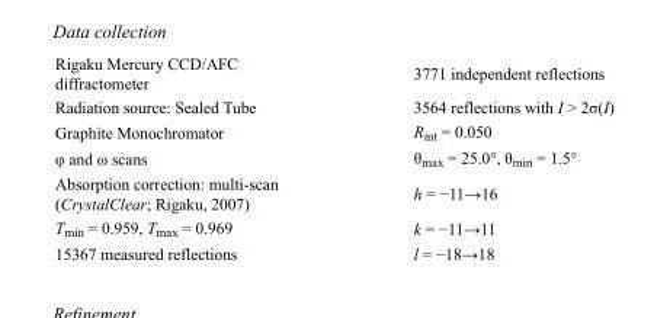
<table><tbody><tr><td>Rigaku Mercury CCD/AFC diffractometer</td><td>3771 independent reflections</td></tr><tr><td>Radiation source: Sealed Tube</td><td>3564 reflections with I &gt; 2σ(I)</td></tr><tr><td>Graphite Monochromator</td><td>R<sub>int</sub> = 0.050</td></tr><tr><td>φ and ω scans</td><td>θ<sub>max</sub> = 25.0°, θ<sub>min</sub> = 1.5°</td></tr><tr><td>Absorption correction: multi-scan (CrystalClear; Rigaku, 2007)</td><td>h = −11→16</td></tr><tr><td>T<sub>min</sub> = 0.959, T<sub>max</sub> = 0.969</td><td>k = −11→11</td></tr><tr><td>15367 measured reflections</td><td>l = −18→18</td></tr></tbody></table>